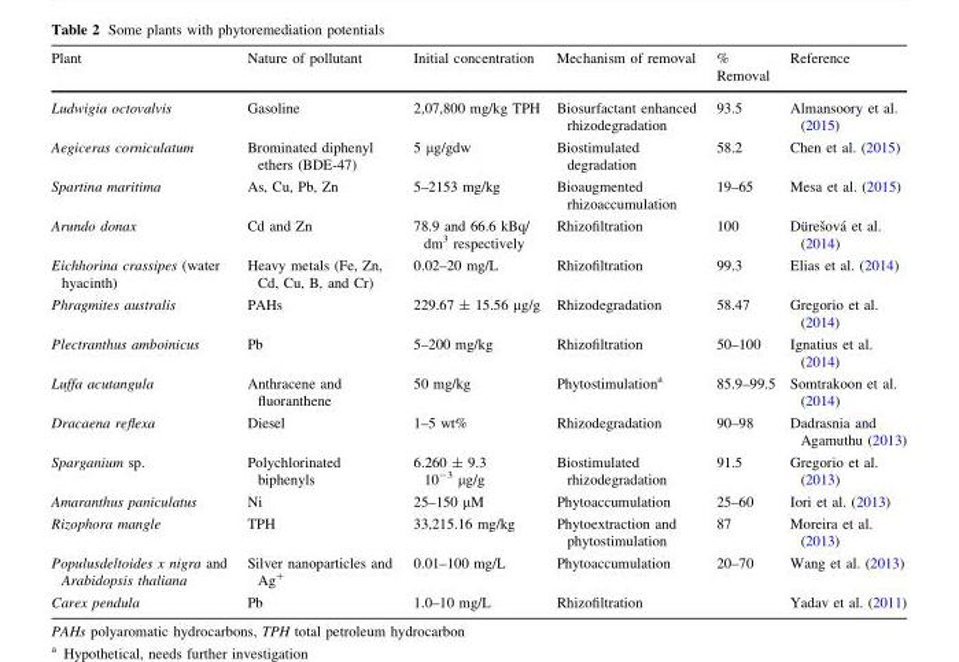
<table><thead><tr><td>Plant</td><td>Nature of pollutant</td><td>Initial concentration</td><td>Mechanism of removal</td><td>% Removal</td><td>Reference</td></tr></thead><tbody><tr><td>Ludwigia octovalvis</td><td>Gasoline</td><td>2,07,800 mg/kg TPH</td><td>Biosurfactant enhanced rhizodegradation</td><td>93.5</td><td>Almansoory et al. (2015)</td></tr><tr><td>Aegiceras corniculatum</td><td>Brominated diphenyl ethers (BDE-47)</td><td>5 μg/gdw</td><td>Biostimulated degradation</td><td>58.2</td><td>Chen et al. (2015)</td></tr><tr><td>Spartina maritima</td><td>As, Cu, Pb, Zn</td><td>5–2153 mg/kg</td><td>Bioaugmented rhizoaccumulation</td><td>19–65</td><td>Mesa et al. (2015)</td></tr><tr><td>Arundo donax</td><td>Cd and Zn</td><td>78.9 and 66.6 kBq/ dm<sup>3</sup> respectively</td><td>Rhizofiltration</td><td>100</td><td>Du¨resˇova´ et al. (2014)</td></tr><tr><td>Eichhorina crassipes (water hyacinth)</td><td>Heavy metals (Fe, Zn, Cd, Cu, B, and Cr)</td><td>0.02–20 mg/L</td><td>Rhizofiltration</td><td>99.3</td><td>Elias et al. (2014)</td></tr><tr><td>Phragmites australis</td><td>PAHs</td><td>229.67 ± 15.56 μg/g</td><td>Rhizodegradation</td><td>58.47</td><td>Gregorio et al. (2014)</td></tr><tr><td>Plectranthus amboinicus</td><td>Pb</td><td>5–200 mg/kg</td><td>Rhizofiltration</td><td>50–100</td><td>Ignatius et al. (2014)</td></tr><tr><td>Luffa acutangula</td><td>Anthracene and fluoranthene</td><td>50 mg/kg</td><td>Phytostimulation<sup>a</sup></td><td>85.9–99.5</td><td>Somtrakoon et al. (2014)</td></tr><tr><td>Dracaena reflexa</td><td>Diesel</td><td>1–5 wt%</td><td>Rhizodegradation</td><td>90–98</td><td>Dadrasnia and Agamuthu (2013)</td></tr><tr><td>Sparganium sp.</td><td>Polychlorinated biphenyls</td><td>6.260 ± 9.3 10<sup>-3</sup> μg/g</td><td>Biostimulated rhizodegradation</td><td>91.5</td><td>Gregorio et al. (2013)</td></tr><tr><td>Amaranthus paniculatus</td><td>Ni</td><td>25–150 μM</td><td>Phytoaccumulation</td><td>25–60</td><td>Iori et al. (2013)</td></tr><tr><td>Rizophora mangle</td><td>TPH</td><td>33,215.16 mg/kg</td><td>Phytoextraction and phytostimulation</td><td>87</td><td>Moreira et al. (2013)</td></tr><tr><td>Populusdeltoides x nigra and Arabidopsis thaliana</td><td>Silver nanoparticles and Ag<sup>+</sup></td><td>0.01–100 mg/L</td><td>Phytoaccumulation</td><td>20–70</td><td>Wang et al. (2013)</td></tr><tr><td>Carex pendula</td><td>Pb</td><td>1.0–10 mg/L</td><td>Rhizofiltration</td><td></td><td>Yadav et al. (2011)</td></tr></tbody></table>